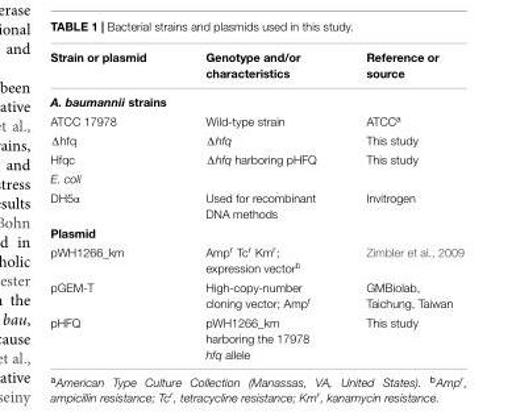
<table><thead><tr><td>Strain or plasmid</td><td>Genotype and/or characteristics</td><td>Reference or source</td></tr></thead><tbody><tr><td colspan="3">A. baumannii strains</td></tr><tr><td>ATCC 17978</td><td>Wild-type strain</td><td>ATCC<sup>a</sup></td></tr><tr><td>Δhfq</td><td>Δhfq</td><td>This study</td></tr><tr><td>Hfqc</td><td>Δhfq harboring pHFQ</td><td>This study</td></tr><tr><td colspan="3">E. coli</td></tr><tr><td>DH5α</td><td>Used for recombinant DNA methods</td><td>Invitrogen</td></tr><tr><td colspan="3">Plasmid</td></tr><tr><td>pWH1266_km</td><td>Amp<sup>r</sup> Tc<sup>r</sup> Km<sup>r</sup>; expression vector<sup>b</sup></td><td>Zimbler et al., 2009</td></tr><tr><td>pGEM-T</td><td>High-copy-number cloning vector; Amp<sup>r</sup></td><td>GMBiolab, Taichung, Taiwan</td></tr><tr><td>pHFQ</td><td>pWH1266_km harboring the 17978 hfq allele</td><td>This study</td></tr></tbody></table>